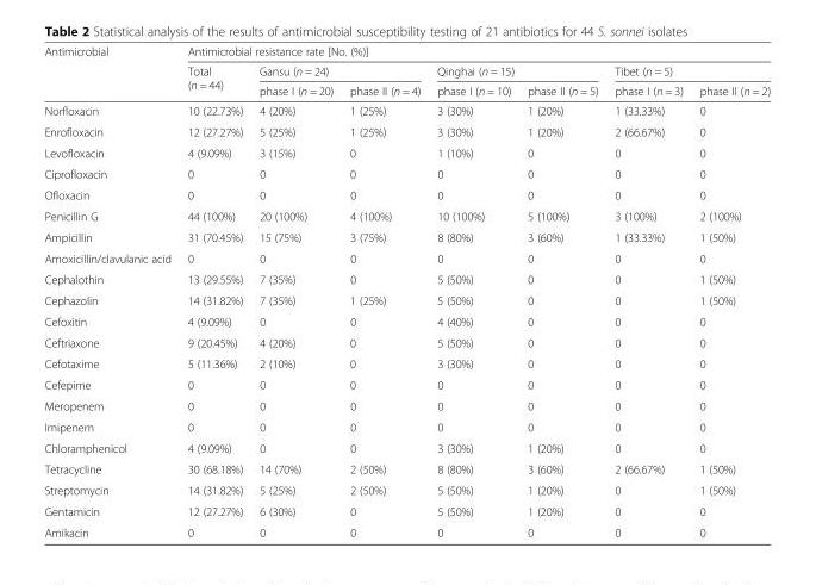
<table><thead><tr><td rowspan="3">Antimicrobial</td><td colspan="7">Antimicrobial resistance rate [No. (%)]</td></tr><tr><td rowspan="2">Total (n = 44)</td><td colspan="2">Gansu (n = 24)</td><td colspan="2">Qinghai (n = 15)</td><td colspan="2">Tibet (n = 5)</td></tr><tr><td>phase I (n = 20)</td><td>phase II (n = 4)</td><td>phase I (n = 10)</td><td>phase II (n = 5)</td><td>phase I (n = 3)</td><td>phase II (n = 2)</td></tr></thead><tbody><tr><td>Norfloxacin</td><td>10 (22.73%)</td><td>4 (20%)</td><td>1 (25%)</td><td>3 (30%)</td><td>1 (20%)</td><td>1 (33.33%)</td><td>0</td></tr><tr><td>Enrofloxacin</td><td>12 (27.27%)</td><td>5 (25%)</td><td>1 (25%)</td><td>3 (30%)</td><td>1 (20%)</td><td>2 (66.67%)</td><td>0</td></tr><tr><td>Levofloxacin</td><td>4 (9.09%)</td><td>3 (15%)</td><td>0</td><td>1 (10%)</td><td>0</td><td>0</td><td>0</td></tr><tr><td>Ciprofloxacin</td><td>0</td><td>0</td><td>0</td><td>0</td><td>0</td><td>0</td><td>0</td></tr><tr><td>Ofloxacin</td><td>0</td><td>0</td><td>0</td><td>0</td><td>0</td><td>0</td><td>0</td></tr><tr><td>Penicillin G</td><td>44 (100%)</td><td>20 (100%)</td><td>4 (100%)</td><td>10 (100%)</td><td>5 (100%)</td><td>3 (100%)</td><td>2 (100%)</td></tr><tr><td>Ampicillin</td><td>31 (70.45%)</td><td>15 (75%)</td><td>3 (75%)</td><td>8 (80%)</td><td>3 (60%)</td><td>1 (33.33%)</td><td>1 (50%)</td></tr><tr><td>Amoxicillin/clavulanic acid</td><td>0</td><td>0</td><td>0</td><td>0</td><td>0</td><td>0</td><td>0</td></tr><tr><td>Cephalothin</td><td>13 (29.55%)</td><td>7 (35%)</td><td>0</td><td>5 (50%)</td><td>0</td><td>0</td><td>1 (50%)</td></tr><tr><td>Cephazolin</td><td>14 (31.82%)</td><td>7 (35%)</td><td>1 (25%)</td><td>5 (50%)</td><td>0</td><td>0</td><td>1 (50%)</td></tr><tr><td>Cefoxitin</td><td>4 (9.09%)</td><td>0</td><td>0</td><td>4 (40%)</td><td>0</td><td>0</td><td>0</td></tr><tr><td>Ceftriaxone</td><td>9 (20.45%)</td><td>4 (20%)</td><td>0</td><td>5 (50%)</td><td>0</td><td>0</td><td>0</td></tr><tr><td>Cefotaxime</td><td>5 (11.36%)</td><td>2 (10%)</td><td>0</td><td>3 (30%)</td><td>0</td><td>0</td><td>0</td></tr><tr><td>Cefepime</td><td>0</td><td>0</td><td>0</td><td>0</td><td>0</td><td>0</td><td>0</td></tr><tr><td>Meropenem</td><td>0</td><td>0</td><td>0</td><td>0</td><td>0</td><td>0</td><td>0</td></tr><tr><td>Imipenem</td><td>0</td><td>0</td><td>0</td><td>0</td><td>0</td><td>0</td><td>0</td></tr><tr><td>Chloramphenicol</td><td>4 (9.09%)</td><td>0</td><td>0</td><td>3 (30%)</td><td>1 (20%)</td><td>0</td><td>0</td></tr><tr><td>Tetracycline</td><td>30 (68.18%)</td><td>14 (70%)</td><td>2 (50%)</td><td>8 (80%)</td><td>3 (60%)</td><td>2 (66.67%)</td><td>1 (50%)</td></tr><tr><td>Streptomycin</td><td>14 (31.82%)</td><td>5 (25%)</td><td>2 (50%)</td><td>5 (50%)</td><td>1 (20%)</td><td>0</td><td>1 (50%)</td></tr><tr><td>Gentamicin</td><td>12 (27.27%)</td><td>6 (30%)</td><td>0</td><td>5 (50%)</td><td>1 (20%)</td><td>0</td><td>0</td></tr><tr><td>Amikacin</td><td>0</td><td>0</td><td>0</td><td>0</td><td>0</td><td>0</td><td>0</td></tr></tbody></table>